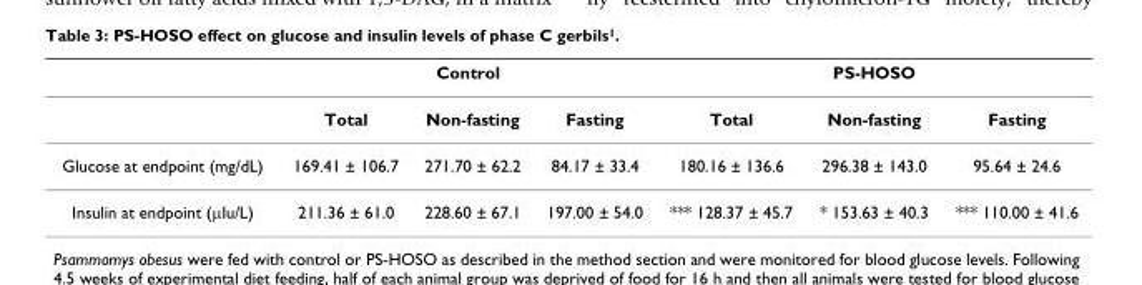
<table><thead><tr><td rowspan="2"></td><td colspan="3">Control</td><td colspan="3">PS-HOSO</td></tr><tr><td>Total</td><td>Non-fasting</td><td>Fasting</td><td>Total</td><td>Non-fasting</td><td>Fasting</td></tr></thead><tbody><tr><td>Glucose at endpoint (mg/dL)</td><td>169.41 ± 106.7</td><td>271.70 ± 62.2</td><td>84.17 ± 33.4</td><td>180.16 ± 136.6</td><td>296.38 ± 143.0</td><td>95.64 ± 24.6</td></tr><tr><td>Insulin at endpoint (μIu/L)</td><td>211.36 ± 61.0</td><td>228.60 ± 67.1</td><td>197.00 ± 54.0</td><td>*** 128.37 ± 45.7</td><td>* 153.63 ± 40.3</td><td>*** 110.00 ± 41.6</td></tr></tbody></table>